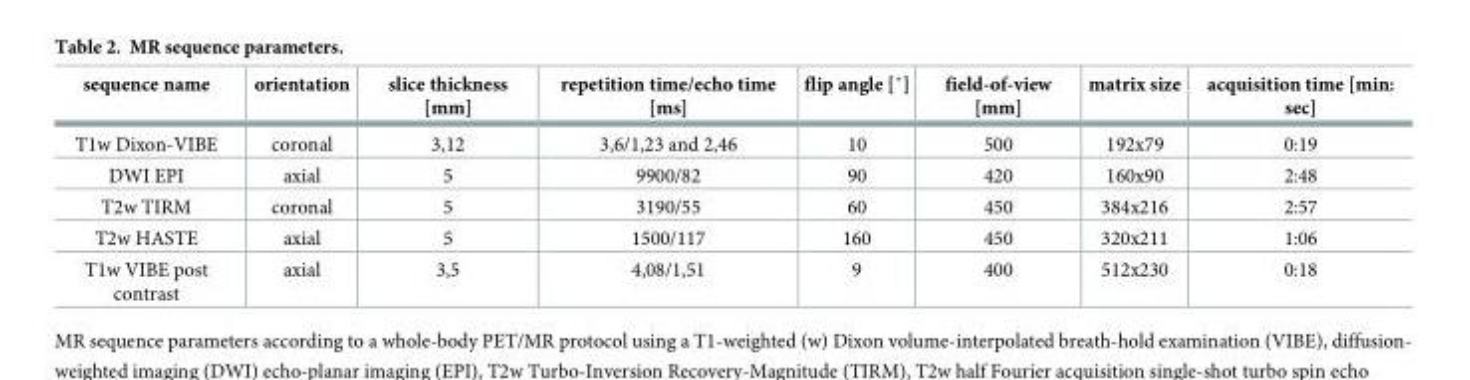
<table><thead><tr><td>sequence name</td><td>orientation</td><td>slice thickness [mm]</td><td>repetition time/echo time [ms]</td><td>flip angle [˚]</td><td>field-of-view [mm]</td><td>matrix size</td><td>acquisition time [min: sec]</td></tr></thead><tbody><tr><td>T1w Dixon-VIBE</td><td>coronal</td><td>3,12</td><td>3,6/1,23 and 2,46</td><td>10</td><td>500</td><td>192x79</td><td>0:19</td></tr><tr><td>DWI EPI</td><td>axial</td><td>5</td><td>9900/82</td><td>90</td><td>420</td><td>160x90</td><td>2:48</td></tr><tr><td>T2w TIRM</td><td>coronal</td><td>5</td><td>3190/55</td><td>60</td><td>450</td><td>384x216</td><td>2:57</td></tr><tr><td>T2w HASTE</td><td>axial</td><td>5</td><td>1500/117</td><td>160</td><td>450</td><td>320x211</td><td>1:06</td></tr><tr><td>T1w VIBE post contrast</td><td>axial</td><td>3,5</td><td>4,08/1,51</td><td>9</td><td>400</td><td>512x230</td><td>0:18</td></tr></tbody></table>